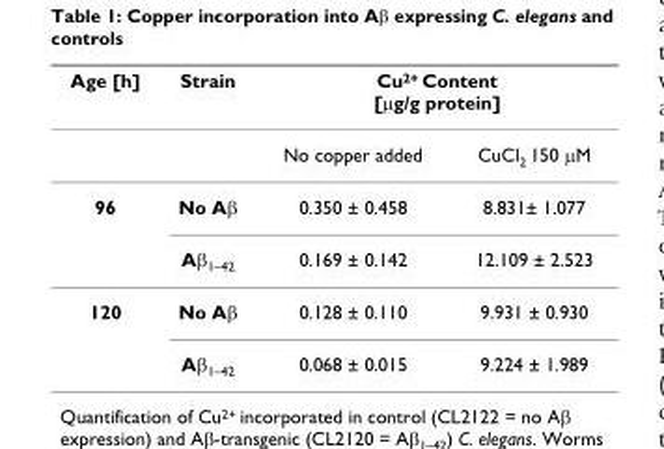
<table><thead><tr><td rowspan="2">Age [h]</td><td rowspan="2">Strain</td><td colspan="2">Cu<sup>2+</sup> Content [μg/g protein]</td></tr><tr><td>No copper added</td><td>CuCl<sub>2</sub> 150 μM</td></tr></thead><tbody><tr><td rowspan="2">96</td><td>No Aβ</td><td>0.350 ± 0.458</td><td>8.831± 1.077</td></tr><tr><td>Aβ<sub>1–42</sub></td><td>0.169 ± 0.142</td><td>12.109 ± 2.523</td></tr><tr><td rowspan="2">120</td><td>No Aβ</td><td>0.128 ± 0.110</td><td>9.931 ± 0.930</td></tr><tr><td>Aβ<sub>1–42</sub></td><td>0.068 ± 0.015</td><td>9.224 ± 1.989</td></tr></tbody></table>